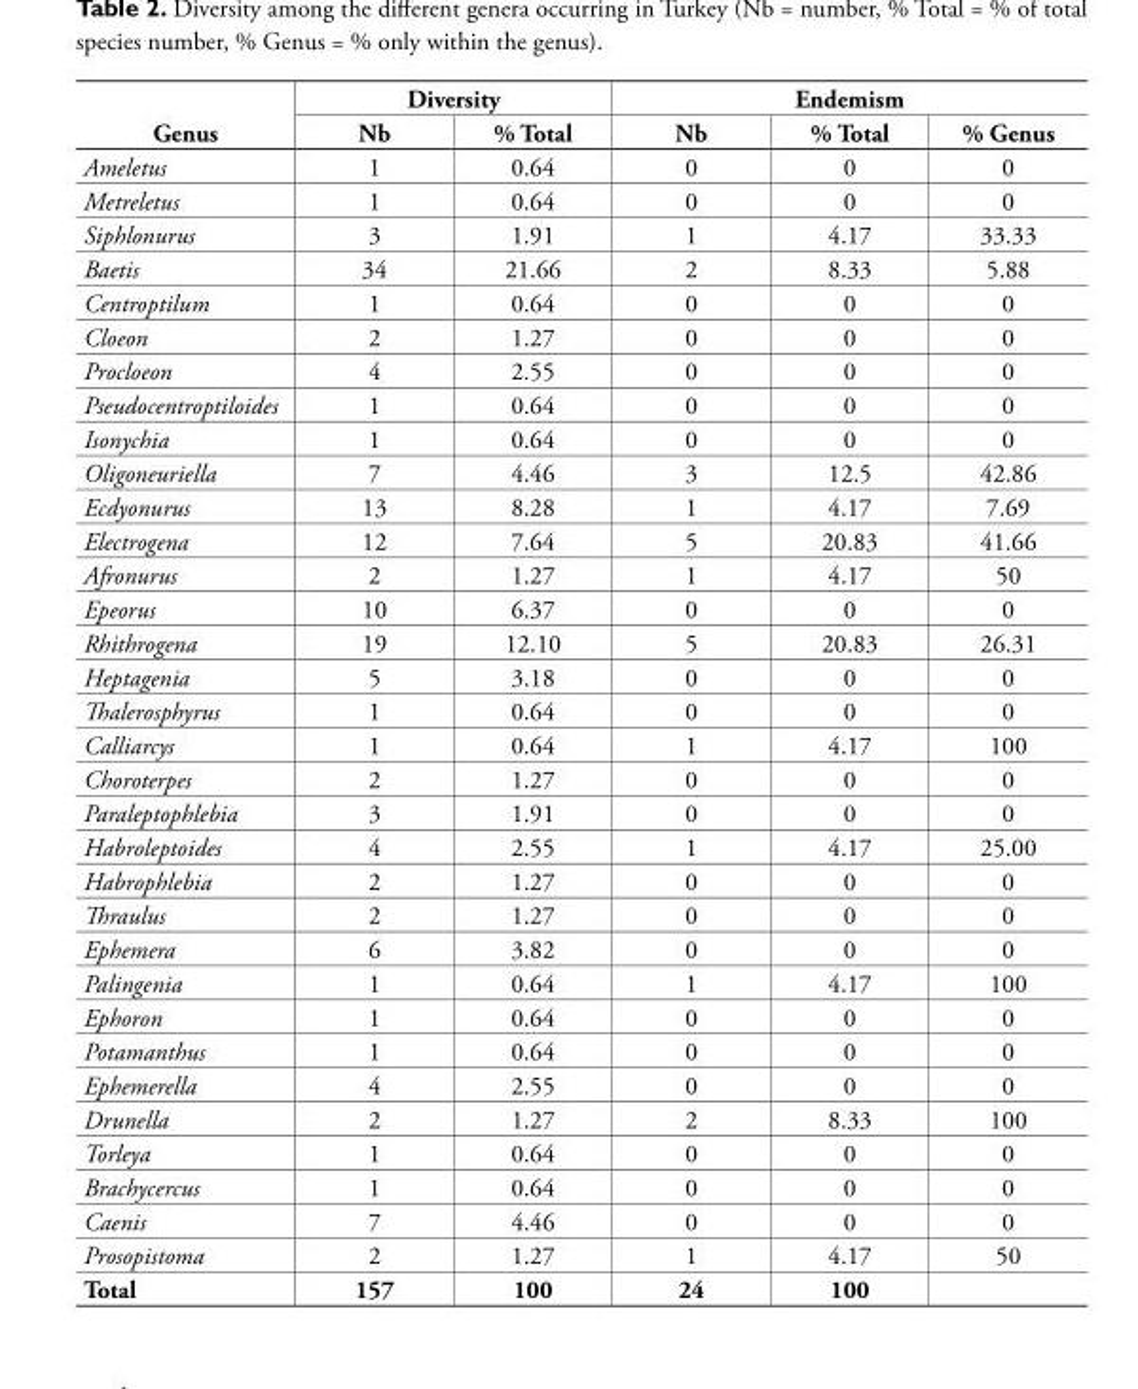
<table><thead><tr><td rowspan="2">Genus</td><td colspan="2">Diversity</td><td colspan="3">Endemism</td></tr><tr><td>Nb</td><td>% Total</td><td>Nb</td><td>% Total</td><td>% Genus</td></tr></thead><tbody><tr><td>Ameletus</td><td>1</td><td>0.64</td><td>0</td><td>0</td><td>0</td></tr><tr><td>Metreletus</td><td>1</td><td>0.64</td><td>0</td><td>0</td><td>0</td></tr><tr><td>Siphlonurus</td><td>3</td><td>1.91</td><td>1</td><td>4.17</td><td>33.33</td></tr><tr><td>Baetis</td><td>34</td><td>21.66</td><td>2</td><td>8.33</td><td>5.88</td></tr><tr><td>Centroptilum</td><td>1</td><td>0.64</td><td>0</td><td>0</td><td>0</td></tr><tr><td>Cloeon</td><td>2</td><td>1.27</td><td>0</td><td>0</td><td>0</td></tr><tr><td>Procloeon</td><td>4</td><td>2.55</td><td>0</td><td>0</td><td>0</td></tr><tr><td>Pseudocentroptiloides</td><td>1</td><td>0.64</td><td>0</td><td>0</td><td>0</td></tr><tr><td>Isonychia</td><td>1</td><td>0.64</td><td>0</td><td>0</td><td>0</td></tr><tr><td>Oligoneuriella</td><td>7</td><td>4.46</td><td>3</td><td>12.5</td><td>42.86</td></tr><tr><td>Ecdyonurus</td><td>13</td><td>8.28</td><td>1</td><td>4.17</td><td>7.69</td></tr><tr><td>Electrogena</td><td>12</td><td>7.64</td><td>5</td><td>20.83</td><td>41.66</td></tr><tr><td>Afronurus</td><td>2</td><td>1.27</td><td>1</td><td>4.17</td><td>50</td></tr><tr><td>Epeorus</td><td>10</td><td>6.37</td><td>0</td><td>0</td><td>0</td></tr><tr><td>Rhithrogena</td><td>19</td><td>12.10</td><td>5</td><td>20.83</td><td>26.31</td></tr><tr><td>Heptagenia</td><td>5</td><td>3.18</td><td>0</td><td>0</td><td>0</td></tr><tr><td>Thalerosphyrus</td><td>1</td><td>0.64</td><td>0</td><td>0</td><td>0</td></tr><tr><td>Calliarcys</td><td>1</td><td>0.64</td><td>1</td><td>4.17</td><td>100</td></tr><tr><td>Choroterpes</td><td>2</td><td>1.27</td><td>0</td><td>0</td><td>0</td></tr><tr><td>Paraleptophlebia</td><td>3</td><td>1.91</td><td>0</td><td>0</td><td>0</td></tr><tr><td>Habroleptoides</td><td>4</td><td>2.55</td><td>1</td><td>4.17</td><td>25.00</td></tr><tr><td>Habrophlebia</td><td>2</td><td>1.27</td><td>0</td><td>0</td><td>0</td></tr><tr><td>Thraulus</td><td>2</td><td>1.27</td><td>0</td><td>0</td><td>0</td></tr><tr><td>Ephemera</td><td>6</td><td>3.82</td><td>0</td><td>0</td><td>0</td></tr><tr><td>Palingenia</td><td>1</td><td>0.64</td><td>1</td><td>4.17</td><td>100</td></tr><tr><td>Ephoron</td><td>1</td><td>0.64</td><td>0</td><td>0</td><td>0</td></tr><tr><td>Potamanthus</td><td>1</td><td>0.64</td><td>0</td><td>0</td><td>0</td></tr><tr><td>Ephemerella</td><td>4</td><td>2.55</td><td>0</td><td>0</td><td>0</td></tr><tr><td>Drunella</td><td>2</td><td>1.27</td><td>2</td><td>8.33</td><td>100</td></tr><tr><td>Torleya</td><td>1</td><td>0.64</td><td>0</td><td>0</td><td>0</td></tr><tr><td>Brachycercus</td><td>1</td><td>0.64</td><td>0</td><td>0</td><td>0</td></tr><tr><td>Caenis</td><td>7</td><td>4.46</td><td>0</td><td>0</td><td>0</td></tr><tr><td>Prosopistoma</td><td>2</td><td>1.27</td><td>1</td><td>4.17</td><td>50</td></tr><tr><td>Total</td><td>157</td><td>100</td><td>24</td><td>100</td><td></td></tr></tbody></table>